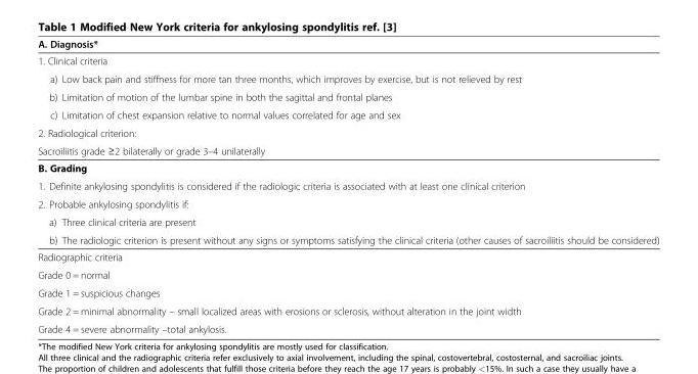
<table><thead><tr><td colspan="3">A. Diagnosis*</td></tr></thead><tbody><tr><td colspan="3">1. Clinical criteria</td></tr><tr><td colspan="2">a)</td><td>Low back pain and stiffness for more tan three months, which improves by exercise, but is not relieved by rest</td></tr><tr><td colspan="2">b)</td><td>Limitation of motion of the lumbar spine in both the sagittal and frontal planes</td></tr><tr><td colspan="2">c)</td><td>Limitation of chest expansion relative to normal values correlated for age and sex</td></tr><tr><td colspan="3">2. Radiological criterion:</td></tr><tr><td colspan="3">Sacroiliitis grade ≥2 bilaterally or grade 3–4 unilaterally</td></tr><tr><td colspan="3">B. Grading</td></tr><tr><td>1.</td><td colspan="2">Definite ankylosing spondylitis is considered if the radiologic criteria is associated with at least one clinical criterion</td></tr><tr><td rowspan="3">2.</td><td colspan="2">Probable ankylosing spondylitis if:</td></tr><tr><td>a)</td><td>Three clinical criteria are present</td></tr><tr><td>b)</td><td>The radiologic criterion is present without any signs or symptoms satisfying the clinical criteria (other causes of sacroiliitis should be considered)</td></tr><tr><td colspan="3">Radiographic criteria</td></tr><tr><td colspan="3">Grade 0 = normal</td></tr><tr><td colspan="3">Grade 1 = suspicious changes</td></tr><tr><td colspan="3">Grade 2 = minimal abnormality – small localized areas with erosions or sclerosis, without alteration in the joint width</td></tr><tr><td colspan="3">Grade 4 = severe abnormality –total ankylosis.</td></tr></tbody></table>